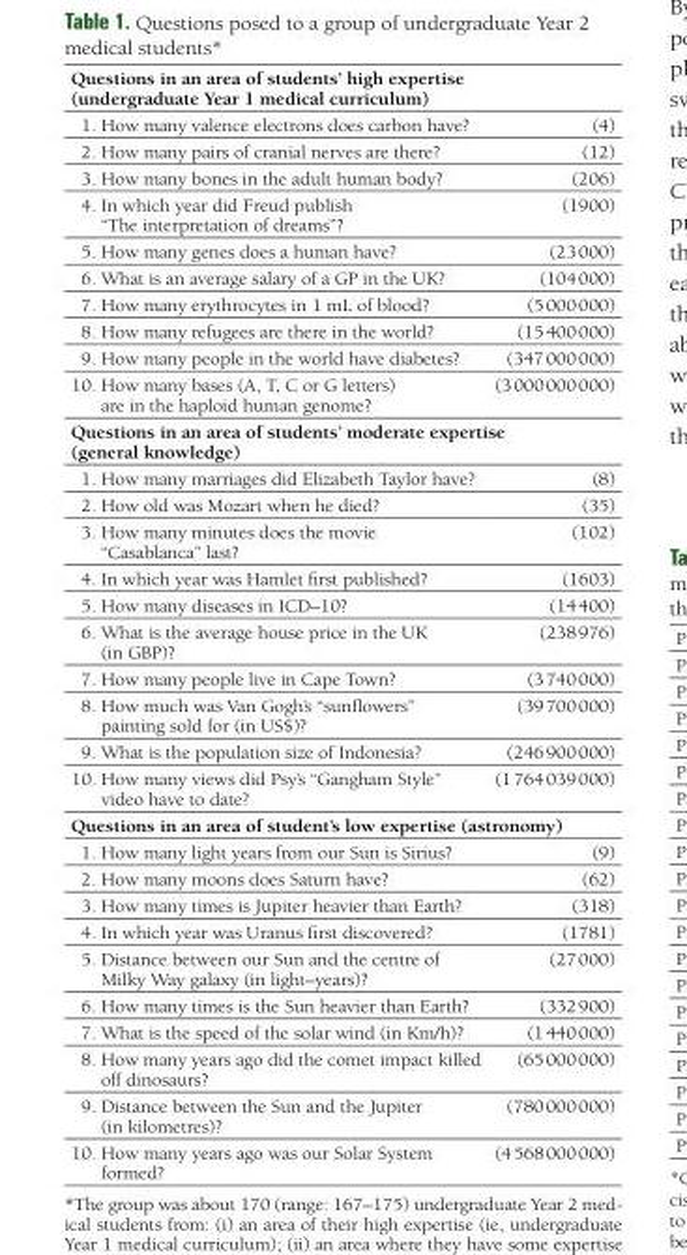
<table><tbody><tr><td colspan="2">Questions in an area of students’ high expertise (undergraduate Year 1 medical curriculum)</td></tr><tr><td>1. How many valence electrons does carbon have?</td><td>(4)</td></tr><tr><td>2. How many pairs of cranial nerves are there?</td><td>(12)</td></tr><tr><td>3. How many bones in the adult human body?</td><td>(206)</td></tr><tr><td>4. In which year did Freud publish “The interpretation of dreams”?</td><td>(1900)</td></tr><tr><td>5. How many genes does a human have?</td><td>(23 000)</td></tr><tr><td>6. What is an average salary of a GP in the UK?</td><td>(104 000)</td></tr><tr><td>7. How many erythrocytes in 1 mL of blood?</td><td>(5 000 000)</td></tr><tr><td>8. How many refugees are there in the world?</td><td>(15 400 000)</td></tr><tr><td>9. How many people in the world have diabetes?</td><td>(347 000 000)</td></tr><tr><td>10. How many bases (A, T, C or G letters) are in the haploid human genome?</td><td>(3 000 000 000)</td></tr><tr><td colspan="2">Questions in an area of students’ moderate expertise (general knowledge)</td></tr><tr><td>1. How many marriages did Elizabeth Taylor have?</td><td>(8)</td></tr><tr><td>2. How old was Mozart when he died?</td><td>(35)</td></tr><tr><td>3. How many minutes does the movie “Casablanca” last?</td><td>(102)</td></tr><tr><td>4. In which year was Hamlet first published?</td><td>(1603)</td></tr><tr><td>5. How many diseases in ICD–10?</td><td>(14 400)</td></tr><tr><td>6. What is the average house price in the UK (in GBP)?</td><td>(238 976)</td></tr><tr><td>7. How many people live in Cape Town?</td><td>(3 740 000)</td></tr><tr><td>8. How much was Van Gogh’s “sunflowers” painting sold for (in US$)?</td><td>(39 700 000)</td></tr><tr><td>9. What is the population size of Indonesia?</td><td>(246 900 000)</td></tr><tr><td>10. How many views did Psy’s “Gangham Style” video have to date?</td><td>(1 764 039 000)</td></tr><tr><td colspan="2">Questions in an area of student’s low expertise (astronomy)</td></tr><tr><td>1. How many light years from our Sun is Sirius?</td><td>(9)</td></tr><tr><td>2. How many moons does Saturn have?</td><td>(62)</td></tr><tr><td>3. How many times is Jupiter heavier than Earth?</td><td>(318)</td></tr><tr><td>4. In which year was Uranus first discovered?</td><td>(1781)</td></tr><tr><td>5. Distance between our Sun and the centre of Milky Way galaxy (in light–years)?</td><td>(27 000)</td></tr><tr><td>6. How many times is the Sun heavier than Earth?</td><td>(332 900)</td></tr><tr><td>7. What is the speed of the solar wind (in Km/h)?</td><td>(1 440 000)</td></tr><tr><td>8. How many years ago did the comet impact killed off dinosaurs?</td><td>(65 000 000)</td></tr><tr><td>9. Distance between the Sun and the Jupiter (in kilometres)?</td><td>(780 000 000)</td></tr><tr><td>10. How many years ago was our Solar System formed?</td><td>(4 568 000 000)</td></tr></tbody></table>